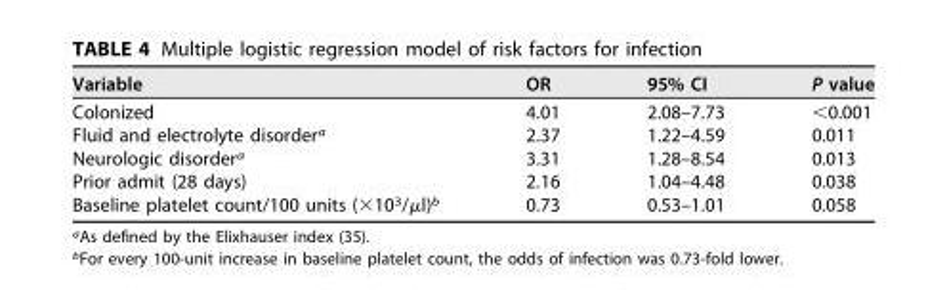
<table><thead><tr><td>Variable</td><td>OR</td><td>95% CI</td><td>P value</td></tr></thead><tbody><tr><td>Colonized</td><td>4.01</td><td>2.08–7.73</td><td>&lt;0.001</td></tr><tr><td>Fluid and electrolyte disorder<sup>a</sup></td><td>2.37</td><td>1.22–4.59</td><td>0.011</td></tr><tr><td>Neurologic disorder<sup>a</sup></td><td>3.31</td><td>1.28–8.54</td><td>0.013</td></tr><tr><td>Prior admit (28 days)</td><td>2.16</td><td>1.04–4.48</td><td>0.038</td></tr><tr><td>Baseline platelet count/100 units (×10<sup>3</sup>/µl)<sup>b</sup></td><td>0.73</td><td>0.53–1.01</td><td>0.058</td></tr></tbody></table>